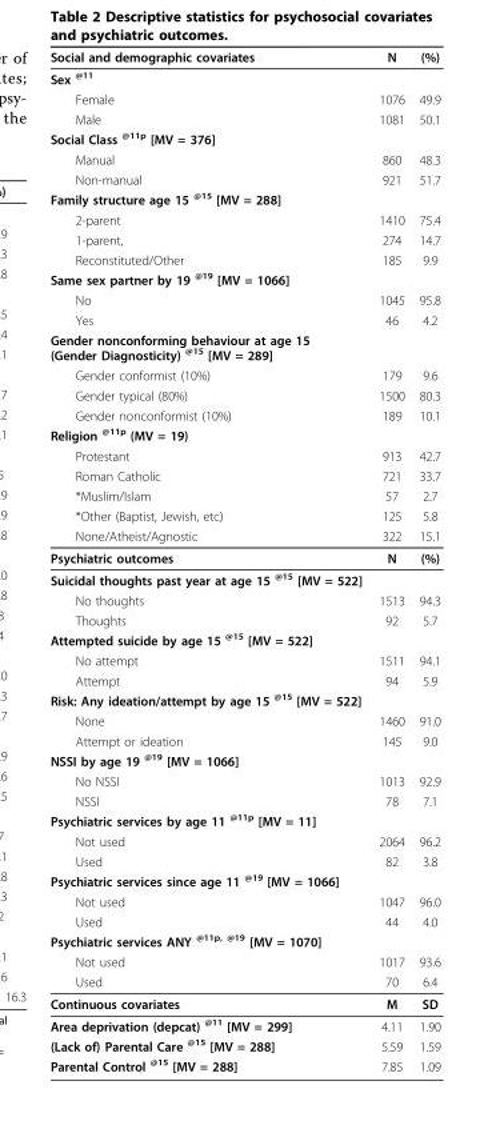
<table><thead><tr><td>Social and demographic covariates</td><td>N</td><td>(%)</td></tr></thead><tbody><tr><td colspan="3">Sex <sup>@11</sup></td></tr><tr><td>Female</td><td>1076</td><td>49.9</td></tr><tr><td>Male</td><td>1081</td><td>50.1</td></tr><tr><td colspan="3">Social Class <sup>@11p</sup> [MV = 376]</td></tr><tr><td>Manual</td><td>860</td><td>48.3</td></tr><tr><td>Non-manual</td><td>921</td><td>51.7</td></tr><tr><td colspan="3">Family structure age 15 <sup>@15</sup> [MV = 288]</td></tr><tr><td>2-parent</td><td>1410</td><td>75.4</td></tr><tr><td>1-parent,</td><td>274</td><td>14.7</td></tr><tr><td>Reconstituted/Other</td><td>185</td><td>9.9</td></tr><tr><td colspan="3">Same sex partner by 19 <sup>@19</sup> [MV = 1066]</td></tr><tr><td>No</td><td>1045</td><td>95.8</td></tr><tr><td>Yes</td><td>46</td><td>4.2</td></tr><tr><td colspan="3">Gender nonconforming behaviour at age 15 (Gender Diagnosticity) <sup>@15</sup> [MV = 289]</td></tr><tr><td>Gender conformist (10%)</td><td>179</td><td>9.6</td></tr><tr><td>Gender typical (80%)</td><td>1500</td><td>80.3</td></tr><tr><td>Gender nonconformist (10%)</td><td>189</td><td>10.1</td></tr><tr><td colspan="3">Religion <sup>@11p</sup> (MV = 19)</td></tr><tr><td>Protestant</td><td>913</td><td>42.7</td></tr><tr><td>Roman Catholic</td><td>721</td><td>33.7</td></tr><tr><td>*Muslim/Islam</td><td>57</td><td>2.7</td></tr><tr><td>*Other (Baptist, Jewish, etc)</td><td>125</td><td>5.8</td></tr><tr><td>None/Atheist/Agnostic</td><td>322</td><td>15.1</td></tr><tr><td>Psychiatric outcomes</td><td>N</td><td>(%)</td></tr><tr><td colspan="3">Suicidal thoughts past year at age 15 <sup>@15</sup> [MV = 522]</td></tr><tr><td>No thoughts</td><td>1513</td><td>94.3</td></tr><tr><td>Thoughts</td><td>92</td><td>5.7</td></tr><tr><td colspan="3">Attempted suicide by age 15 <sup>@15</sup> [MV = 522]</td></tr><tr><td>No attempt</td><td>1511</td><td>94.1</td></tr><tr><td>Attempt</td><td>94</td><td>5.9</td></tr><tr><td colspan="3">Risk: Any ideation/attempt by age 15 <sup>@15</sup> [MV = 522]</td></tr><tr><td>None</td><td>1460</td><td>91.0</td></tr><tr><td>Attempt or ideation</td><td>145</td><td>9.0</td></tr><tr><td colspan="3">NSSI by age 19 <sup>@19</sup> [MV = 1066]</td></tr><tr><td>No NSSI</td><td>1013</td><td>92.9</td></tr><tr><td>NSSI</td><td>78</td><td>7.1</td></tr><tr><td colspan="3">Psychiatric services by age 11 <sup>@11p</sup> [MV = 11]</td></tr><tr><td>Not used</td><td>2064</td><td>96.2</td></tr><tr><td>Used</td><td>82</td><td>3.8</td></tr><tr><td colspan="3">Psychiatric services since age 11 <sup>@19</sup> [MV = 1066]</td></tr><tr><td>Not used</td><td>1047</td><td>96.0</td></tr><tr><td>Used</td><td>44</td><td>4.0</td></tr><tr><td colspan="3">Psychiatric services ANY <sup>@11p, @19</sup> [MV = 1070]</td></tr><tr><td>Not used</td><td>1017</td><td>93.6</td></tr><tr><td>Used</td><td>70</td><td>6.4</td></tr><tr><td>Continuous covariates</td><td>M</td><td>SD</td></tr><tr><td>Area deprivation (depcat) <sup>@11</sup> [MV = 299]</td><td>4.11</td><td>1.90</td></tr><tr><td>(Lack of) Parental Care <sup>@15</sup> [MV = 288]</td><td>5.59</td><td>1.59</td></tr><tr><td>Parental Control <sup>@15</sup> [MV = 288]</td><td>7.85</td><td>1.09</td></tr></tbody></table>